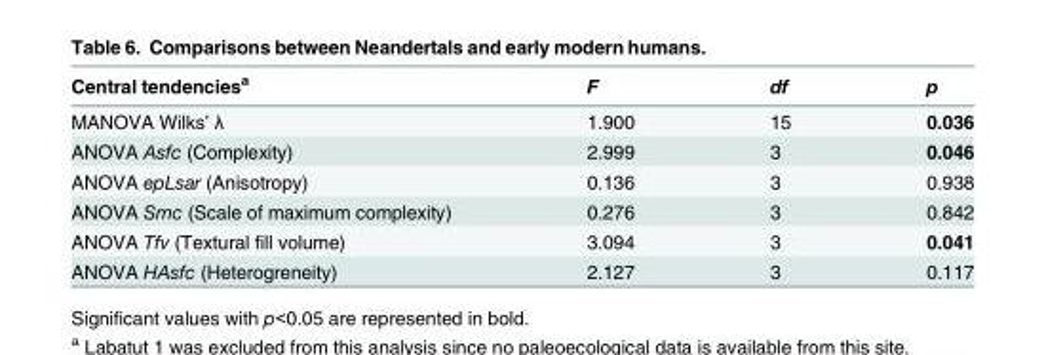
<table><thead><tr><td>Central tendencies<sup>a</sup></td><td>F</td><td>df</td><td>p</td></tr></thead><tbody><tr><td>MANOVA Wilks’ λ</td><td>1.900</td><td>15</td><td>0.036</td></tr><tr><td>ANOVA Asfc (Complexity)</td><td>2.999</td><td>3</td><td>0.046</td></tr><tr><td>ANOVA epLsar (Anisotropy)</td><td>0.136</td><td>3</td><td>0.938</td></tr><tr><td>ANOVA Smc (Scale of maximum complexity)</td><td>0.276</td><td>3</td><td>0.842</td></tr><tr><td>ANOVA Tfv (Textural fill volume)</td><td>3.094</td><td>3</td><td>0.041</td></tr><tr><td>ANOVA HAsfc (Heterogreneity)</td><td>2.127</td><td>3</td><td>0.117</td></tr></tbody></table>